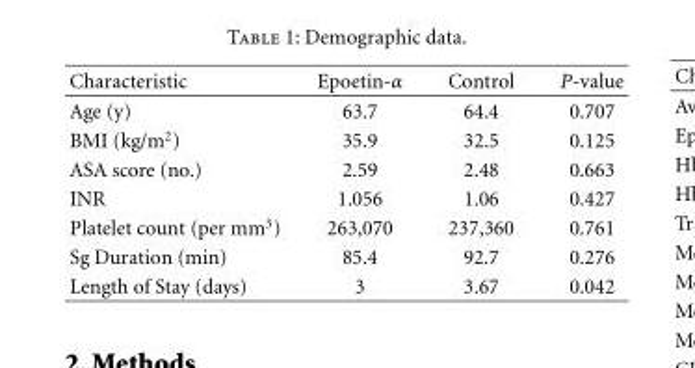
<table><thead><tr><td>Characteristic</td><td>Epoetin-α</td><td>Control</td><td>P-value</td></tr></thead><tbody><tr><td>Age (y)</td><td>63.7</td><td>64.4</td><td>0.707</td></tr><tr><td>BMI (kg/m<sup>2</sup>)</td><td>35.9</td><td>32.5</td><td>0.125</td></tr><tr><td>ASA score (no.)</td><td>2.59</td><td>2.48</td><td>0.663</td></tr><tr><td>INR</td><td>1.056</td><td>1.06</td><td>0.427</td></tr><tr><td>Platelet count (per mm<sup>3</sup>)</td><td>263,070</td><td>237,360</td><td>0.761</td></tr><tr><td>Sg Duration (min)</td><td>85.4</td><td>92.7</td><td>0.276</td></tr><tr><td>Length of Stay (days)</td><td>3</td><td>3.67</td><td>0.042</td></tr></tbody></table>